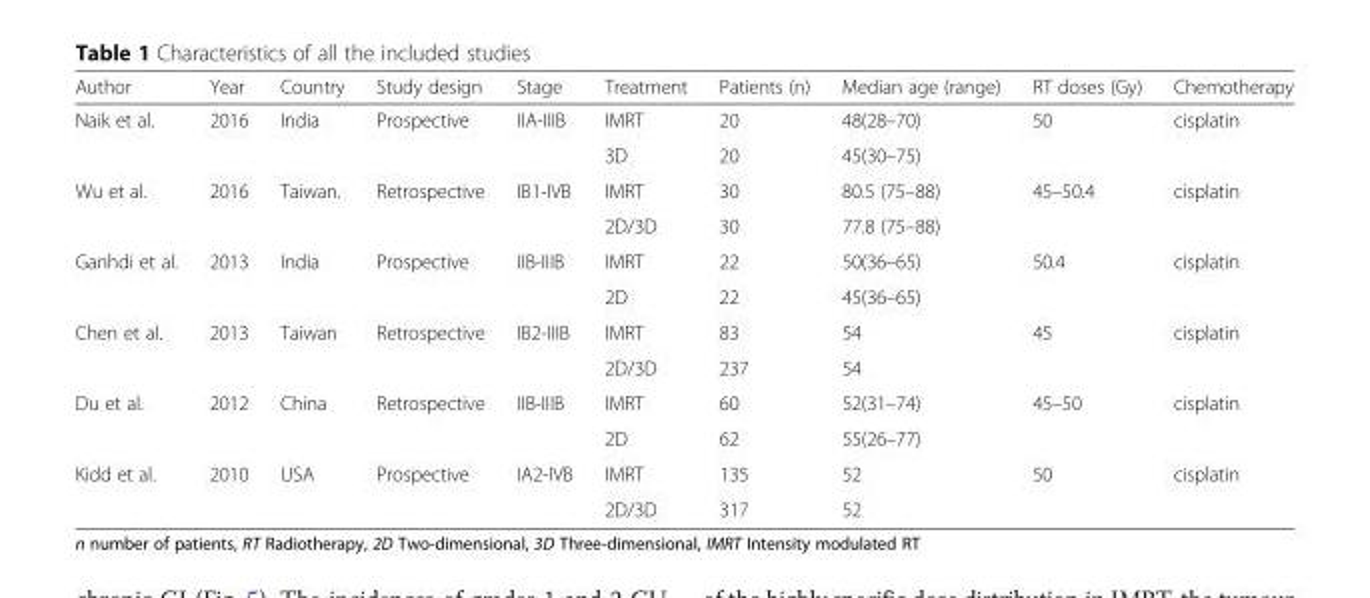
<table><thead><tr><td>Author</td><td>Year</td><td>Country</td><td>Study design</td><td>Stage</td><td>Treatment</td><td>Patients (n)</td><td>Median age (range)</td><td>RT doses (Gy)</td><td>Chemotherapy</td></tr></thead><tbody><tr><td rowspan="2">Naik et al.</td><td rowspan="2">2016</td><td rowspan="2">India</td><td rowspan="2">Prospective</td><td rowspan="2">IIA-IIIB</td><td>IMRT</td><td>20</td><td>48(28–70)</td><td rowspan="2">50</td><td rowspan="2">cisplatin</td></tr><tr><td>3D</td><td>20</td><td>45(30–75)</td></tr><tr><td rowspan="2">Wu et al.</td><td rowspan="2">2016</td><td rowspan="2">Taiwan.</td><td rowspan="2">Retrospective</td><td rowspan="2">IB1-IVB</td><td>IMRT</td><td>30</td><td>80.5 (75–88)</td><td rowspan="2">45–50.4</td><td rowspan="2">cisplatin</td></tr><tr><td>2D/3D</td><td>30</td><td>77.8 (75–88)</td></tr><tr><td rowspan="2">Ganhdi et al.</td><td rowspan="2">2013</td><td rowspan="2">India</td><td rowspan="2">Prospective</td><td rowspan="2">IIB-IIIB</td><td>IMRT</td><td>22</td><td>50(36–65)</td><td rowspan="2">50.4</td><td rowspan="2">cisplatin</td></tr><tr><td>2D</td><td>22</td><td>45(36–65)</td></tr><tr><td rowspan="2">Chen et al.</td><td rowspan="2">2013</td><td rowspan="2">Taiwan</td><td rowspan="2">Retrospective</td><td rowspan="2">IB2-IIIB</td><td>IMRT</td><td>83</td><td>54</td><td rowspan="2">45</td><td rowspan="2">cisplatin</td></tr><tr><td>2D/3D</td><td>237</td><td>54</td></tr><tr><td rowspan="2">Du et al.</td><td rowspan="2">2012</td><td rowspan="2">China</td><td rowspan="2">Retrospective</td><td rowspan="2">IIB-IIIB</td><td>IMRT</td><td>60</td><td>52(31–74)</td><td rowspan="2">45–50</td><td rowspan="2">cisplatin</td></tr><tr><td>2D</td><td>62</td><td>55(26–77)</td></tr><tr><td rowspan="2">Kidd et al.</td><td rowspan="2">2010</td><td rowspan="2">USA</td><td rowspan="2">Prospective</td><td rowspan="2">IA2-IVB</td><td>IMRT</td><td>135</td><td>52</td><td rowspan="2">50</td><td rowspan="2">cisplatin</td></tr><tr><td>2D/3D</td><td>317</td><td>52</td></tr></tbody></table>